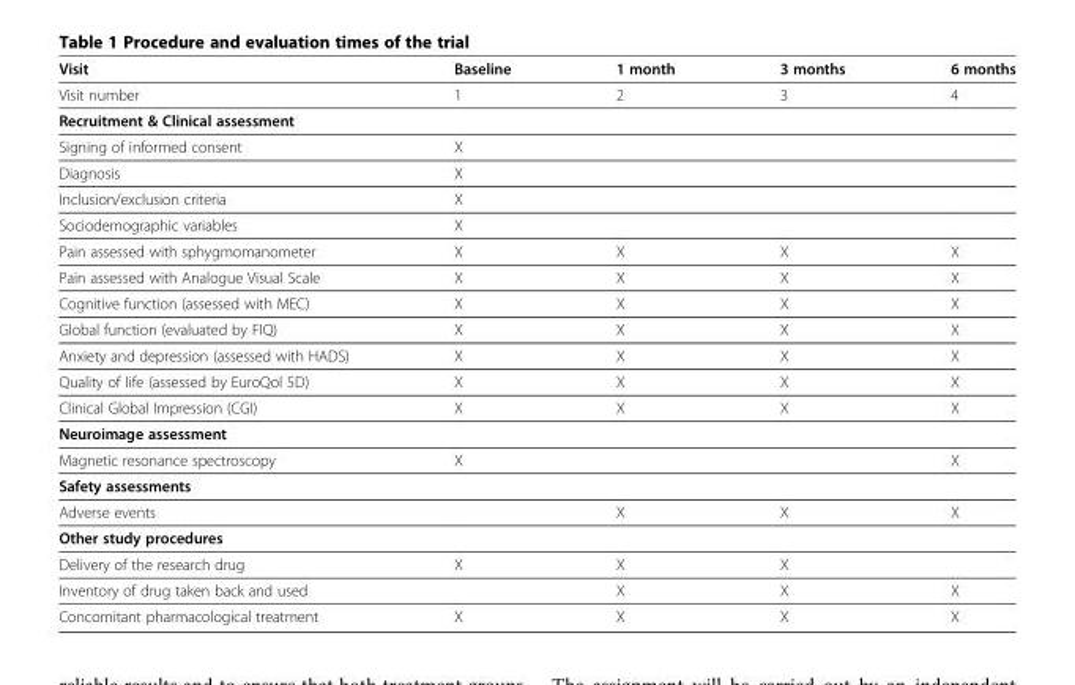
<table><thead><tr><td>Visit</td><td>Baseline</td><td>1 month</td><td>3 months</td><td>6 months</td></tr></thead><tbody><tr><td>Visit number</td><td>1</td><td>2</td><td>3</td><td>4</td></tr><tr><td colspan="5">Recruitment &amp; Clinical assessment</td></tr><tr><td>Signing of informed consent</td><td>X</td><td></td><td></td><td></td></tr><tr><td>Diagnosis</td><td>X</td><td></td><td></td><td></td></tr><tr><td>Inclusion/exclusion criteria</td><td>X</td><td></td><td></td><td></td></tr><tr><td>Sociodemographic variables</td><td>X</td><td></td><td></td><td></td></tr><tr><td>Pain assessed with sphygmomanometer</td><td>X</td><td>X</td><td>X</td><td>X</td></tr><tr><td>Pain assessed with Analogue Visual Scale</td><td>X</td><td>X</td><td>X</td><td>X</td></tr><tr><td>Cognitive function (assessed with MEC)</td><td>X</td><td>X</td><td>X</td><td>X</td></tr><tr><td>Global function (evaluated by FIQ)</td><td>X</td><td>X</td><td>X</td><td>X</td></tr><tr><td>Anxiety and depression (assessed with HADS)</td><td>X</td><td>X</td><td>X</td><td>X</td></tr><tr><td>Quality of life (assessed by EuroQol 5D)</td><td>X</td><td>X</td><td>X</td><td>X</td></tr><tr><td>Clinical Global Impression (CGI)</td><td>X</td><td>X</td><td>X</td><td>X</td></tr><tr><td colspan="5">Neuroimage assessment</td></tr><tr><td>Magnetic resonance spectroscopy</td><td>X</td><td></td><td></td><td>X</td></tr><tr><td colspan="5">Safety assessments</td></tr><tr><td>Adverse events</td><td></td><td>X</td><td>X</td><td>X</td></tr><tr><td colspan="5">Other study procedures</td></tr><tr><td>Delivery of the research drug</td><td>X</td><td>X</td><td>X</td><td></td></tr><tr><td>Inventory of drug taken back and used</td><td></td><td>X</td><td>X</td><td>X</td></tr><tr><td>Concomitant pharmacological treatment</td><td>X</td><td>X</td><td>X</td><td>X</td></tr></tbody></table>